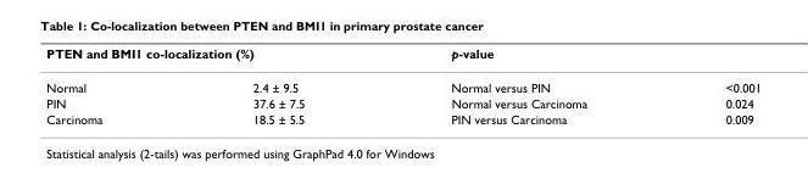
<table><thead><tr><td colspan="2">PTEN and BMI1 co-localization (%)</td><td rowspan="2">p-value Normal versus PIN</td><td rowspan="2">&lt;0.001</td></tr><tr><td>Normal</td><td>2.4 ± 9.5</td></tr></thead><tbody><tr><td>PIN</td><td>37.6 ± 7.5</td><td>Normal versus Carcinoma</td><td>0.024</td></tr><tr><td>Carcinoma</td><td>18.5 ± 5.5</td><td>PIN versus Carcinoma</td><td>0.009</td></tr></tbody></table>